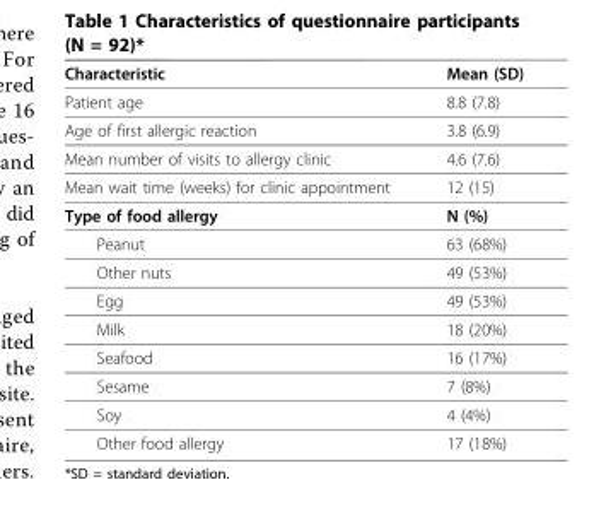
<table><thead><tr><td>Characteristic</td><td>Mean (SD)</td></tr></thead><tbody><tr><td>Patient age</td><td>8.8 (7.8)</td></tr><tr><td>Age of first allergic reaction</td><td>3.8 (6.9)</td></tr><tr><td>Mean number of visits to allergy clinic</td><td>4.6 (7.6)</td></tr><tr><td>Mean wait time (weeks) for clinic appointment</td><td>12 (15)</td></tr><tr><td>Type of food allergy</td><td>N (%)</td></tr><tr><td>Peanut</td><td>63 (68%)</td></tr><tr><td>Other nuts</td><td>49 (53%)</td></tr><tr><td>Egg</td><td>49 (53%)</td></tr><tr><td>Milk</td><td>18 (20%)</td></tr><tr><td>Seafood</td><td>16 (17%)</td></tr><tr><td>Sesame</td><td>7 (8%)</td></tr><tr><td>Soy</td><td>4 (4%)</td></tr><tr><td>Other food allergy</td><td>17 (18%)</td></tr></tbody></table>